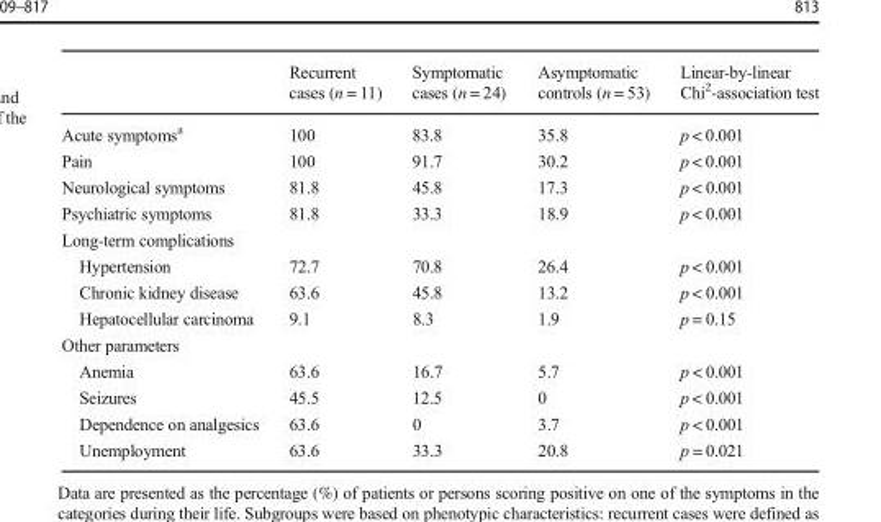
<table><thead><tr><td></td><td>Recurrent cases (n = 11)</td><td>Symptomatic cases (n = 24)</td><td>Asymptomatic controls (n = 53)</td><td>Linear-by-linear Chi<sup>2</sup>-association test</td></tr></thead><tbody><tr><td>Acute symptoms<sup>a</sup></td><td>100</td><td>83.8</td><td>35.8</td><td>p &lt; 0.001</td></tr><tr><td>Pain</td><td>100</td><td>91.7</td><td>30.2</td><td>p &lt; 0.001</td></tr><tr><td>Neurological symptoms</td><td>81.8</td><td>45.8</td><td>17.3</td><td>p &lt; 0.001</td></tr><tr><td>Psychiatric symptoms</td><td>81.8</td><td>33.3</td><td>18.9</td><td>p &lt; 0.001</td></tr><tr><td colspan="5">Long-term complications</td></tr><tr><td>Hypertension</td><td>72.7</td><td>70.8</td><td>26.4</td><td>p &lt; 0.001</td></tr><tr><td>Chronic kidney disease</td><td>63.6</td><td>45.8</td><td>13.2</td><td>p &lt; 0.001</td></tr><tr><td>Hepatocellular carcinoma</td><td>9.1</td><td>8.3</td><td>1.9</td><td>p = 0.15</td></tr><tr><td colspan="5">Other parameters</td></tr><tr><td>Anemia</td><td>63.6</td><td>16.7</td><td>5.7</td><td>p &lt; 0.001</td></tr><tr><td>Seizures</td><td>45.5</td><td>12.5</td><td>0</td><td>p &lt; 0.001</td></tr><tr><td>Dependence on analgesics</td><td>63.6</td><td>0</td><td>3.7</td><td>p &lt; 0.001</td></tr><tr><td>Unemployment</td><td>63.6</td><td>33.3</td><td>20.8</td><td>p = 0.021</td></tr></tbody></table>